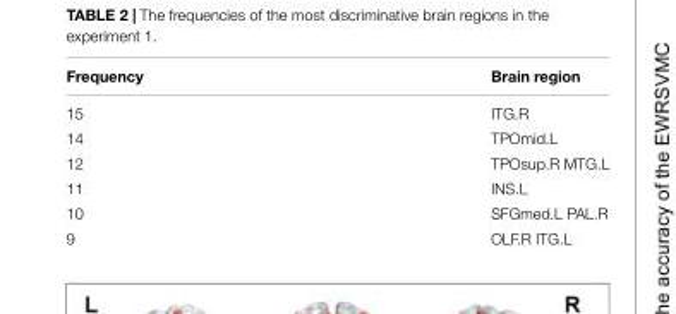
<table><thead><tr><td>Frequency</td><td>Brain region</td></tr></thead><tbody><tr><td>15</td><td>ITG.R</td></tr><tr><td>14</td><td>TPOmid.L</td></tr><tr><td>12</td><td>TPOsup.R MTG.L</td></tr><tr><td>11</td><td>INS.L</td></tr><tr><td>10</td><td>SFGmed.L PAL.R</td></tr><tr><td>9</td><td>OLF.R ITG.L</td></tr></tbody></table>